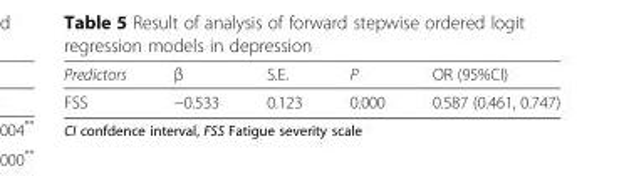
<table><thead><tr><td>Predictors</td><td>β</td><td>S.E.</td><td>P</td><td>OR (95%CI)</td></tr></thead><tbody><tr><td>FSS</td><td>−0.533</td><td>0.123</td><td>0.000</td><td>0.587 (0.461, 0.747)</td></tr></tbody></table>